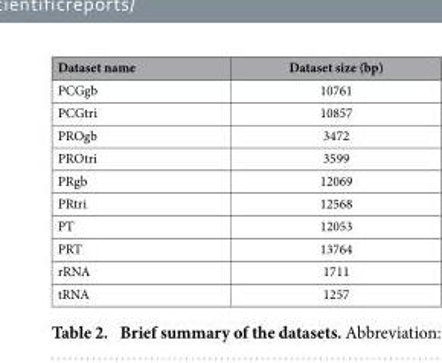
<table><thead><tr><td>Dataset name</td><td>Dataset size (bp)</td></tr></thead><tbody><tr><td>PCGgb</td><td>10761</td></tr><tr><td>PCGtri</td><td>10857</td></tr><tr><td>PROgb</td><td>3472</td></tr><tr><td>PROtri</td><td>3599</td></tr><tr><td>PRgb</td><td>12069</td></tr><tr><td>PRtri</td><td>12568</td></tr><tr><td>PT</td><td>12053</td></tr><tr><td>PRT</td><td>13764</td></tr><tr><td>rRNA</td><td>1711</td></tr><tr><td>tRNA</td><td>1257</td></tr></tbody></table>